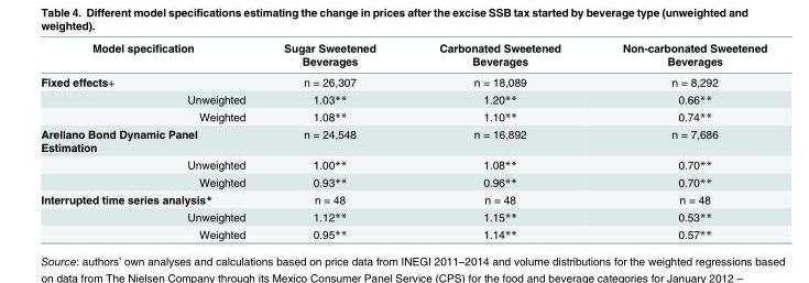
<table><thead><tr><td>Model specification</td><td>Sugar Sweetened Beverages</td><td>Carbonated Sweetened Beverages</td><td>Non-carbonated Sweetened Beverages</td></tr></thead><tbody><tr><td>Fixed effects+</td><td>n = 26,307</td><td>n = 18,089</td><td>n = 8,292</td></tr><tr><td>Unweighted</td><td>1.03**</td><td>1.20**</td><td>0.66**</td></tr><tr><td>Weighted</td><td>1.08**</td><td>1.10**</td><td>0.74**</td></tr><tr><td>Arellano Bond Dynamic Panel Estimation</td><td>n = 24,548</td><td>n = 16,892</td><td>n = 7,686</td></tr><tr><td>Unweighted</td><td>1.00**</td><td>1.08**</td><td>0.70**</td></tr><tr><td>Weighted</td><td>0.93**</td><td>0.96**</td><td>0.70**</td></tr><tr><td>Interrupted time series analysis*</td><td>n = 48</td><td>n = 48</td><td>n = 48</td></tr><tr><td>Unweighted</td><td>1.12**</td><td>1.15**</td><td>0.53**</td></tr><tr><td>Weighted</td><td>0.95**</td><td>1.14**</td><td>0.57**</td></tr></tbody></table>